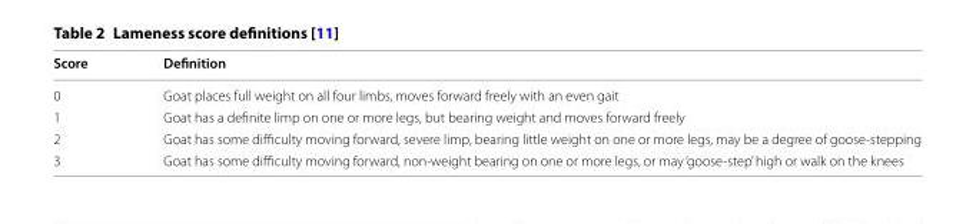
<table><thead><tr><td>Score</td><td>Definition</td></tr></thead><tbody><tr><td>0</td><td>Goat places full weight on all four limbs, moves forward freely with an even gait</td></tr><tr><td>1</td><td>Goat has a definite limp on one or more legs, but bearing weight and moves forward freely</td></tr><tr><td>2</td><td>Goat has some difficulty moving forward, severe limp, bearing little weight on one or more legs, may be a degree of goose‑stepping</td></tr><tr><td>3</td><td>Goat has some difficulty moving forward, non‑weight bearing on one or more legs, or may ‘goose‑step’ high or walk on the knees</td></tr></tbody></table>